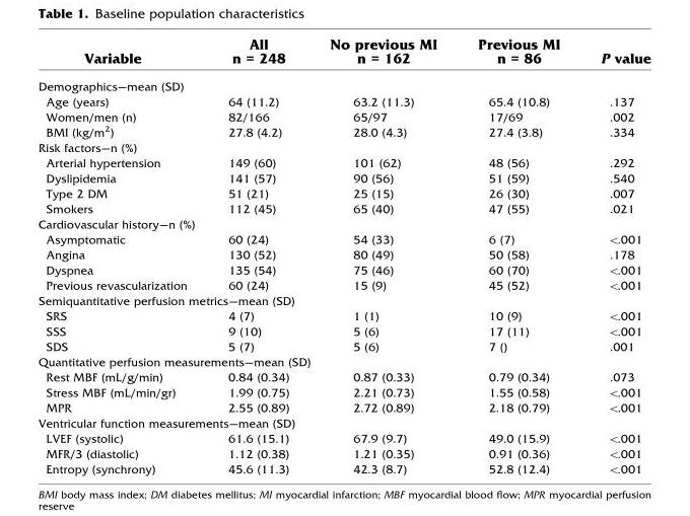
<table><thead><tr><td>Variable</td><td>All n = 248</td><td>No previous MI n = 162</td><td>Previous MI n = 86</td><td>P value</td></tr></thead><tbody><tr><td colspan="5">Demographics—mean (SD)</td></tr><tr><td>Age (years)</td><td>64 (11.2)</td><td>63.2 (11.3)</td><td>65.4 (10.8)</td><td>.137</td></tr><tr><td>Women/men (n)</td><td>82/166</td><td>65/97</td><td>17/69</td><td>.002</td></tr><tr><td>BMI (kg/m<sup>2</sup>)</td><td>27.8 (4.2)</td><td>28.0 (4.3)</td><td>27.4 (3.8)</td><td>.334</td></tr><tr><td colspan="5">Risk factors—n (%)</td></tr><tr><td>Arterial hypertension</td><td>149 (60)</td><td>101 (62)</td><td>48 (56)</td><td>.292</td></tr><tr><td>Dyslipidemia</td><td>141 (57)</td><td>90 (56)</td><td>51 (59)</td><td>.540</td></tr><tr><td>Type 2 DM</td><td>51 (21)</td><td>25 (15)</td><td>26 (30)</td><td>.007</td></tr><tr><td>Smokers</td><td>112 (45)</td><td>65 (40)</td><td>47 (55)</td><td>.021</td></tr><tr><td colspan="5">Cardiovascular history—n (%)</td></tr><tr><td>Asymptomatic</td><td>60 (24)</td><td>54 (33)</td><td>6 (7)</td><td>&lt;.001</td></tr><tr><td>Angina</td><td>130 (52)</td><td>80 (49)</td><td>50 (58)</td><td>.178</td></tr><tr><td>Dyspnea</td><td>135 (54)</td><td>75 (46)</td><td>60 (70)</td><td>&lt;.001</td></tr><tr><td>Previous revascularization</td><td>60 (24)</td><td>15 (9)</td><td>45 (52)</td><td>&lt;.001</td></tr><tr><td colspan="5">Semiquantitative perfusion metrics—mean (SD)</td></tr><tr><td>SRS</td><td>4 (7)</td><td>1 (1)</td><td>10 (9)</td><td>&lt;.001</td></tr><tr><td>SSS</td><td>9 (10)</td><td>5 (6)</td><td>17 (11)</td><td>&lt;.001</td></tr><tr><td>SDS</td><td>5 (7)</td><td>5 (6)</td><td>7 ()</td><td>.001</td></tr><tr><td colspan="5">Quantitative perfusion measurements—mean (SD)</td></tr><tr><td>Rest MBF (mL/g/min)</td><td>0.84 (0.34)</td><td>0.87 (0.33)</td><td>0.79 (0.34)</td><td>.073</td></tr><tr><td>Stress MBF (mL/min/gr)</td><td>1.99 (0.75)</td><td>2.21 (0.73)</td><td>1.55 (0.58)</td><td>&lt;.001</td></tr><tr><td>MPR</td><td>2.55 (0.89)</td><td>2.72 (0.89)</td><td>2.18 (0.79)</td><td>&lt;.001</td></tr><tr><td colspan="5">Ventricular function measurements—mean (SD)</td></tr><tr><td>LVEF (systolic)</td><td>61.6 (15.1)</td><td>67.9 (9.7)</td><td>49.0 (15.9)</td><td>&lt;.001</td></tr><tr><td>MFR/3 (diastolic)</td><td>1.12 (0.38)</td><td>1.21 (0.35)</td><td>0.91 (0.36)</td><td>&lt;.001</td></tr><tr><td>Entropy (synchrony)</td><td>45.6 (11.3)</td><td>42.3 (8.7)</td><td>52.8 (12.4)</td><td>&lt;.001</td></tr></tbody></table>